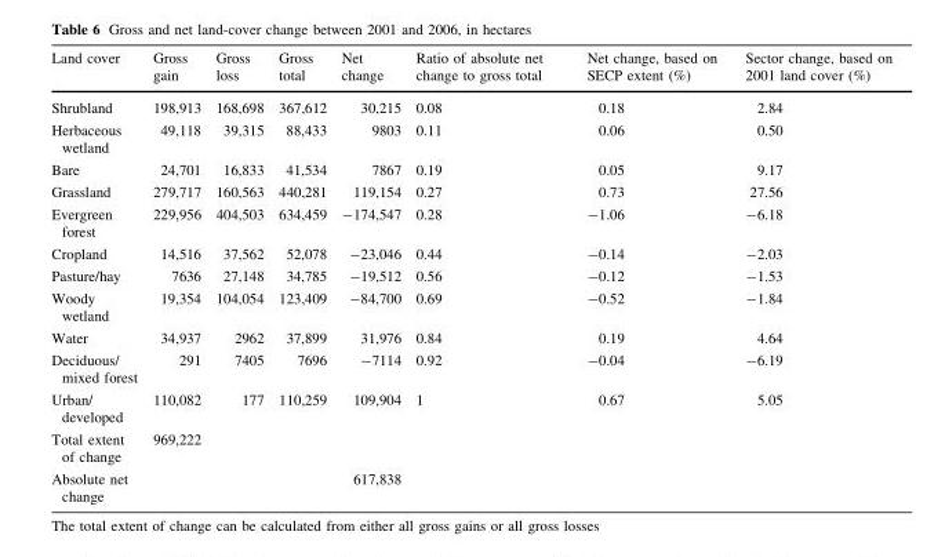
<table><thead><tr><td>Land cover</td><td>Gross gain</td><td>Gross loss</td><td>Gross total</td><td>Net change</td><td>Ratio of absolute net change to gross total</td><td>Net change, based on SECP extent (%)</td><td>Sector change, based on 2001 land cover (%)</td></tr></thead><tbody><tr><td>Shrubland</td><td>198,913</td><td>168,698</td><td>367,612</td><td>30,215</td><td>0.08</td><td>0.18</td><td>2.84</td></tr><tr><td>Herbaceous wetland</td><td>49,118</td><td>39,315</td><td>88,433</td><td>9803</td><td>0.11</td><td>0.06</td><td>0.50</td></tr><tr><td>Bare</td><td>24,701</td><td>16,833</td><td>41,534</td><td>7867</td><td>0.19</td><td>0.05</td><td>9.17</td></tr><tr><td>Grassland</td><td>279,717</td><td>160,563</td><td>440,281</td><td>119,154</td><td>0.27</td><td>0.73</td><td>27.56</td></tr><tr><td>Evergreen forest</td><td>229,956</td><td>404,503</td><td>634,459</td><td>-174,547</td><td>0.28</td><td>-1.06</td><td>-6.18</td></tr><tr><td>Cropland</td><td>14,516</td><td>37,562</td><td>52,078</td><td>-23,046</td><td>0.44</td><td>-0.14</td><td>-2.03</td></tr><tr><td>Pasture/hay</td><td>7636</td><td>27,148</td><td>34,785</td><td>-19,512</td><td>0.56</td><td>-0.12</td><td>-1.53</td></tr><tr><td>Woody wetland</td><td>19,354</td><td>104,054</td><td>123,409</td><td>-84,700</td><td>0.69</td><td>-0.52</td><td>-1.84</td></tr><tr><td>Water</td><td>34,937</td><td>2962</td><td>37,899</td><td>31,976</td><td>0.84</td><td>0.19</td><td>4.64</td></tr><tr><td>Deciduous/ mixed forest</td><td>291</td><td>7405</td><td>7696</td><td>-7114</td><td>0.92</td><td>-0.04</td><td>-6.19</td></tr><tr><td>Urban/ developed</td><td>110,082</td><td>177</td><td>110,259</td><td>109,904</td><td>1</td><td>0.67</td><td>5.05</td></tr><tr><td>Total extent of change</td><td>969,222</td><td></td><td></td><td></td><td></td><td></td><td></td></tr><tr><td>Absolute net change</td><td></td><td></td><td></td><td>617,838</td><td></td><td></td><td></td></tr></tbody></table>